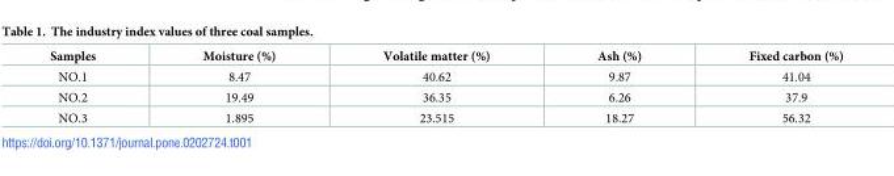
<table><thead><tr><td>Samples</td><td>Moisture (%)</td><td>Volatile matter (%)</td><td>Ash (%)</td><td>Fixed carbon (%)</td></tr></thead><tbody><tr><td>NO.1</td><td>8.47</td><td>40.62</td><td>9.87</td><td>41.04</td></tr><tr><td>NO.2</td><td>19.49</td><td>36.35</td><td>6.26</td><td>37.9</td></tr><tr><td>NO.3</td><td>1.895</td><td>23.515</td><td>18.27</td><td>56.32</td></tr></tbody></table>